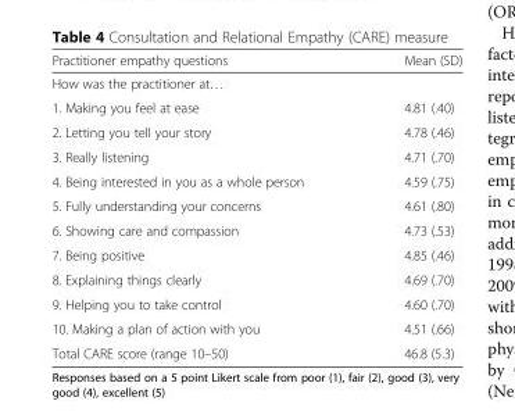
<table><thead><tr><td>Practitioner empathy questions</td><td>Mean (SD)</td></tr></thead><tbody><tr><td colspan="2">How was the practitioner at…</td></tr><tr><td>1. Making you feel at ease</td><td>4.81 (.40)</td></tr><tr><td>2. Letting you tell your story</td><td>4.78 (.46)</td></tr><tr><td>3. Really listening</td><td>4.71 (.70)</td></tr><tr><td>4. Being interested in you as a whole person</td><td>4.59 (.75)</td></tr><tr><td>5. Fully understanding your concerns</td><td>4.61 (.80)</td></tr><tr><td>6. Showing care and compassion</td><td>4.73 (.53)</td></tr><tr><td>7. Being positive</td><td>4.85 (.46)</td></tr><tr><td>8. Explaining things clearly</td><td>4.69 (.70)</td></tr><tr><td>9. Helping you to take control</td><td>4.60 (.70)</td></tr><tr><td>10. Making a plan of action with you</td><td>4.51 (.66)</td></tr><tr><td>Total CARE score (range 10–50)</td><td>46.8 (5.3)</td></tr></tbody></table>